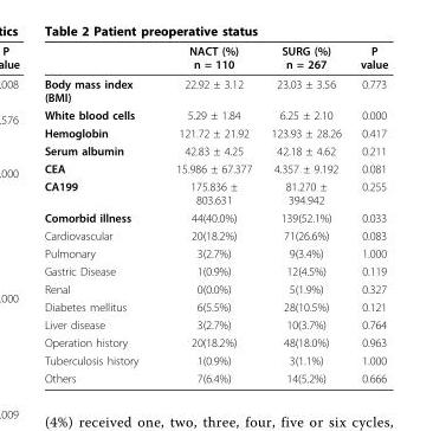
<table><thead><tr><td></td><td>NACT (%) n = 110</td><td>SURG (%) n = 267</td><td>P value</td></tr></thead><tbody><tr><td>Body mass index (BMI)</td><td>22.92 ± 3.12</td><td>23.03 ± 3.56</td><td>0.773</td></tr><tr><td>White blood cells</td><td>5.29 ± 1.84</td><td>6.25 ± 2.10</td><td>0.000</td></tr><tr><td>Hemoglobin</td><td>121.72 ± 21.92</td><td>123.93 ± 28.26</td><td>0.417</td></tr><tr><td>Serum albumin</td><td>42.83 ± 4.25</td><td>42.18 ± 4.62</td><td>0.211</td></tr><tr><td>CEA</td><td>15.986 ± 67.377</td><td>4.357 ± 9.192</td><td>0.081</td></tr><tr><td>CA199</td><td>175.836 ± 803.631</td><td>81.270 ± 394.942</td><td>0.255</td></tr><tr><td>Comorbid illness</td><td>44(40.0%)</td><td>139(52.1%)</td><td>0.033</td></tr><tr><td>Cardiovascular</td><td>20(18.2%)</td><td>71(26.6%)</td><td>0.083</td></tr><tr><td>Pulmonary</td><td>3(2.7%)</td><td>9(3.4%)</td><td>1.000</td></tr><tr><td>Gastric Disease</td><td>1(0.9%)</td><td>12(4.5%)</td><td>0.119</td></tr><tr><td>Renal</td><td>0(0.0%)</td><td>5(1.9%)</td><td>0.327</td></tr><tr><td>Diabetes mellitus</td><td>6(5.5%)</td><td>28(10.5%)</td><td>0.121</td></tr><tr><td>Liver disease</td><td>3(2.7%)</td><td>10(3.7%)</td><td>0.764</td></tr><tr><td>Operation history</td><td>20(18.2%)</td><td>48(18.0%)</td><td>0.963</td></tr><tr><td>Tuberculosis history</td><td>1(0.9%)</td><td>3(1.1%)</td><td>1.000</td></tr><tr><td>Others</td><td>7(6.4%)</td><td>14(5.2%)</td><td>0.666</td></tr></tbody></table>